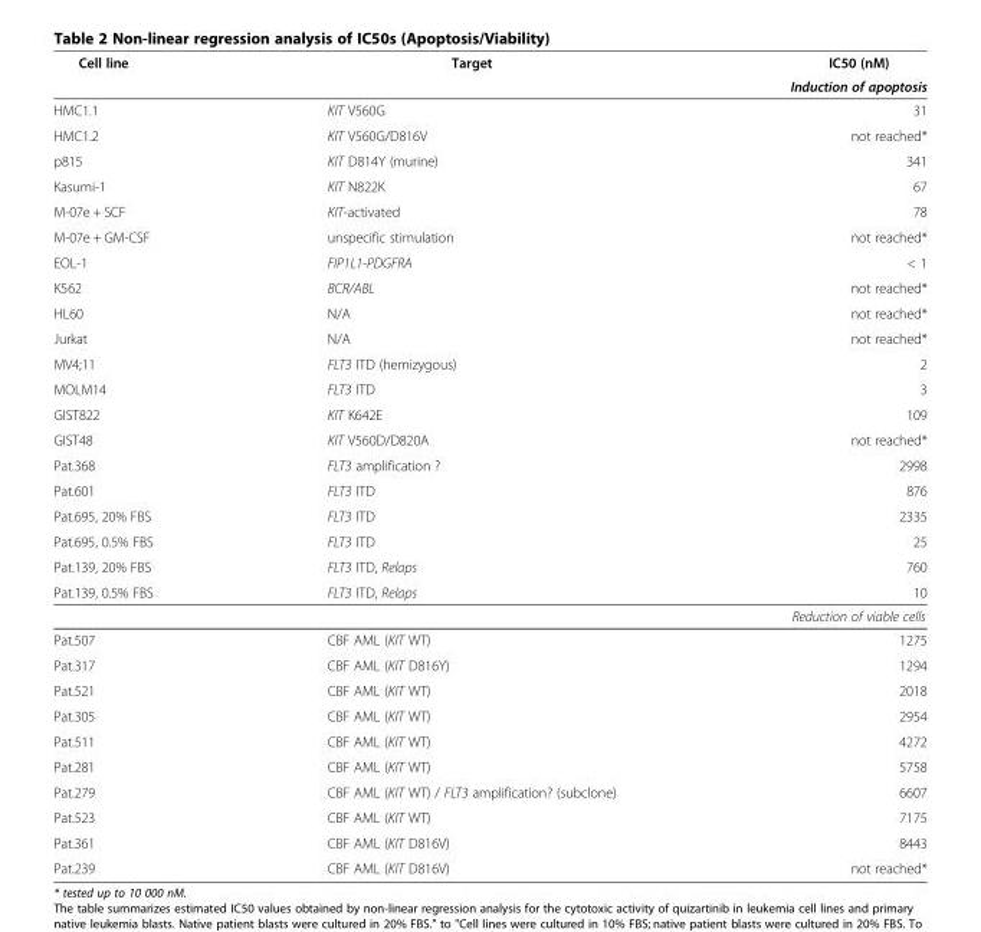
<table><thead><tr><td rowspan="2">Cell line</td><td rowspan="2">Target</td><td rowspan="2">IC50 (nM) Induction of apoptosis</td></tr><tr></tr></thead><tbody><tr><td>HMC1.1</td><td>KIT V560G</td><td>31</td></tr><tr><td>HMC1.2</td><td>KIT V560G/D816V</td><td>not reached*</td></tr><tr><td>p815</td><td>KIT D814Y (murine)</td><td>341</td></tr><tr><td>Kasumi-1</td><td>KIT N822K</td><td>67</td></tr><tr><td>M-07e + SCF</td><td>KIT-activated</td><td>78</td></tr><tr><td>M-07e + GM-CSF</td><td>unspecific stimulation</td><td>not reached*</td></tr><tr><td>EOL-1</td><td>FIP1L1-PDGFRA</td><td>&lt; 1</td></tr><tr><td>K562</td><td>BCR/ABL</td><td>not reached*</td></tr><tr><td>HL60</td><td>N/A</td><td>not reached*</td></tr><tr><td>Jurkat</td><td>N/A</td><td>not reached*</td></tr><tr><td>MV4;11</td><td>FLT3 ITD (hemizygous)</td><td>2</td></tr><tr><td>MOLM14</td><td>FLT3 ITD</td><td>3</td></tr><tr><td>GIST822</td><td>KIT K642E</td><td>109</td></tr><tr><td>GIST48</td><td>KIT V560D/D820A</td><td>not reached*</td></tr><tr><td>Pat.368</td><td>FLT3 amplification ?</td><td>2998</td></tr><tr><td>Pat.601</td><td>FLT3 ITD</td><td>876</td></tr><tr><td>Pat.695, 20% FBS</td><td>FLT3 ITD</td><td>2335</td></tr><tr><td>Pat.695, 0.5% FBS</td><td>FLT3 ITD</td><td>25</td></tr><tr><td>Pat.139, 20% FBS</td><td>FLT3 ITD, Relaps</td><td>760</td></tr><tr><td rowspan="2">Pat.139, 0.5% FBS</td><td>FLT3 ITD, Relaps</td><td>10</td></tr><tr><td></td><td>Reduction of viable cells</td></tr><tr><td>Pat.507</td><td>CBF AML (KIT WT)</td><td>1275</td></tr><tr><td>Pat.317</td><td>CBF AML (KIT D816Y)</td><td>1294</td></tr><tr><td>Pat.521</td><td>CBF AML (KIT WT)</td><td>2018</td></tr><tr><td>Pat.305</td><td>CBF AML (KIT WT)</td><td>2954</td></tr><tr><td>Pat.511</td><td>CBF AML (KIT WT)</td><td>4272</td></tr><tr><td>Pat.281</td><td>CBF AML (KIT WT)</td><td>5758</td></tr><tr><td>Pat.279</td><td>CBF AML (KIT WT) / FLT3 amplification? (subclone)</td><td>6607</td></tr><tr><td>Pat.523</td><td>CBF AML (KIT WT)</td><td>7175</td></tr><tr><td>Pat.361</td><td>CBF AML (KIT D816V)</td><td>8443</td></tr><tr><td>Pat.239</td><td>CBF AML (KIT D816V)</td><td>not reached*</td></tr></tbody></table>